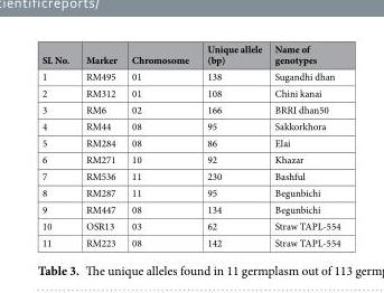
<table><thead><tr><td>SL No.</td><td>Marker</td><td>Chromosome</td><td>Unique allele (bp)</td><td>Name of genotypes</td></tr></thead><tbody><tr><td>1</td><td>RM495</td><td>01</td><td>138</td><td>Sugandhi dhan</td></tr><tr><td>2</td><td>RM312</td><td>01</td><td>108</td><td>Chini kanai</td></tr><tr><td>3</td><td>RM6</td><td>02</td><td>166</td><td>BRRI dhan50</td></tr><tr><td>4</td><td>RM44</td><td>08</td><td>95</td><td>Sakkorkhora</td></tr><tr><td>5</td><td>RM284</td><td>08</td><td>86</td><td>Elai</td></tr><tr><td>6</td><td>RM271</td><td>10</td><td>92</td><td>Khazar</td></tr><tr><td>7</td><td>RM536</td><td>11</td><td>230</td><td>Bashful</td></tr><tr><td>8</td><td>RM287</td><td>11</td><td>95</td><td>Begunbichi</td></tr><tr><td>9</td><td>RM447</td><td>08</td><td>134</td><td>Begunbichi</td></tr><tr><td>10</td><td>OSR13</td><td>03</td><td>62</td><td>Straw TAPL-554</td></tr><tr><td>11</td><td>RM223</td><td>08</td><td>142</td><td>Straw TAPL-554</td></tr></tbody></table>